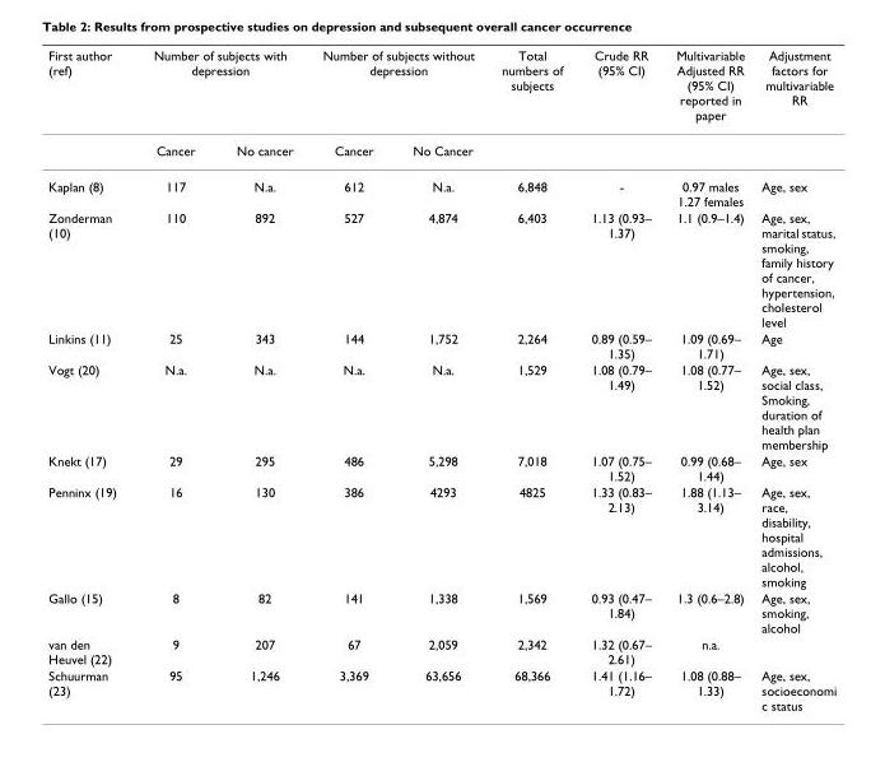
<table><thead><tr><td rowspan="2">First author (ref)</td><td colspan="2">Number of subjects with depression</td><td colspan="2">Number of subjects without depression</td><td rowspan="2">Total numbers of subjects</td><td rowspan="2">Crude RR (95% CI)</td><td rowspan="2">Multivariable Adjusted RR (95% CI) reported in paper</td><td rowspan="2">Adjustment factors for multivariable RR</td></tr><tr><td>Cancer</td><td>No cancer</td><td>Cancer</td><td>No Cancer</td></tr></thead><tbody><tr><td>Kaplan (8)</td><td>117</td><td>N.a.</td><td>612</td><td>N.a.</td><td>6,848</td><td>-</td><td>0.97 males 1.27 females</td><td>Age, sex</td></tr><tr><td>Zonderman (10)</td><td>110</td><td>892</td><td>527</td><td>4,874</td><td>6,403</td><td>1.13 (0.93– 1.37)</td><td>1.1 (0.9–1.4)</td><td>Age, sex, marital status, smoking, family history of cancer, hypertension, cholesterol level</td></tr><tr><td>Linkins (11)</td><td>25</td><td>343</td><td>144</td><td>1,752</td><td>2,264</td><td>0.89 (0.59– 1.35)</td><td>1.09 (0.69– 1.71)</td><td>Age</td></tr><tr><td>Vogt (20)</td><td>N.a.</td><td>N.a.</td><td>N.a.</td><td>N.a.</td><td>1,529</td><td>1.08 (0.79– 1.49)</td><td>1.08 (0.77– 1.52)</td><td>Age, sex, social class, Smoking, duration of health plan membership</td></tr><tr><td>Knekt (17)</td><td>29</td><td>295</td><td>486</td><td>5,298</td><td>7,018</td><td>1.07 (0.75– 1.52)</td><td>0.99 (0.68– 1.44)</td><td>Age, sex</td></tr><tr><td>Penninx (19)</td><td>16</td><td>130</td><td>386</td><td>4293</td><td>4825</td><td>1.33 (0.83– 2.13)</td><td>1.88 (1.13– 3.14)</td><td>Age, sex, race, disability, hospital admissions, alcohol, smoking</td></tr><tr><td>Gallo (15)</td><td>8</td><td>82</td><td>141</td><td>1,338</td><td>1,569</td><td>0.93 (0.47– 1.84)</td><td>1.3 (0.6–2.8)</td><td>Age, sex, smoking, alcohol</td></tr><tr><td>van den Heuvel (22)</td><td>9</td><td>207</td><td>67</td><td>2,059</td><td>2,342</td><td>1.32 (0.67– 2.61)</td><td>n.a.</td><td></td></tr><tr><td>Schuurman (23)</td><td>95</td><td>1,246</td><td>3,369</td><td>63,656</td><td>68,366</td><td>1.41 (1.16– 1.72)</td><td>1.08 (0.88– 1.33)</td><td>Age, sex, socioeconomi c status</td></tr></tbody></table>